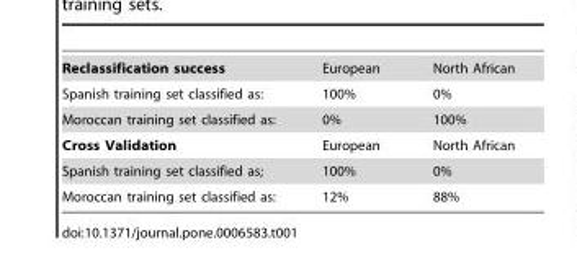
<table><tbody><tr><td>Reclassification success</td><td>European</td><td>North African</td></tr><tr><td>Spanish training set classified as:</td><td>100%</td><td>0%</td></tr><tr><td>Moroccan training set classified as:</td><td>0%</td><td>100%</td></tr><tr><td>Cross Validation</td><td>European</td><td>North African</td></tr><tr><td>Spanish training set classified as;</td><td>100%</td><td>0%</td></tr><tr><td>Moroccan training set classified as:</td><td>12%</td><td>88%</td></tr></tbody></table>